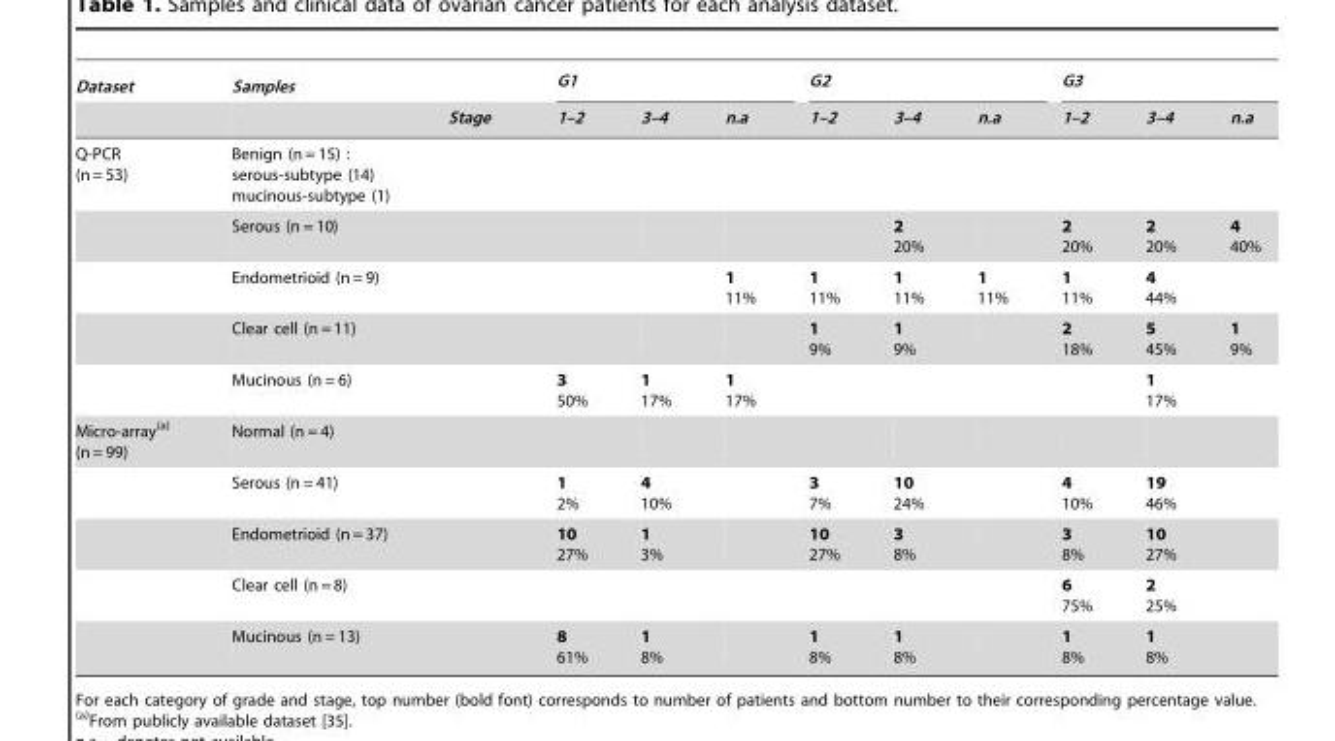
<table><thead><tr><td rowspan="2">Dataset</td><td rowspan="2">Samples</td><td rowspan="2">Stage</td><td colspan="3">G1</td><td colspan="3">G2</td><td colspan="3">G3</td></tr><tr><td>1–2</td><td>3–4</td><td>n.a</td><td>1–2</td><td>3–4</td><td>n.a</td><td>1–2</td><td>3–4</td><td>n.a</td></tr></thead><tbody><tr><td rowspan="5">Q-PCR (n = 53)</td><td colspan="2">Benign (n = 15) : serous-subtype (14) mucinous-subtype (1)</td><td></td><td></td><td></td><td></td><td></td><td></td><td></td><td></td><td></td></tr><tr><td colspan="2">Serous (n = 10)</td><td></td><td></td><td></td><td></td><td>2 20%</td><td></td><td>2 20%</td><td>2 20%</td><td>4 40%</td></tr><tr><td colspan="2">Endometrioid (n = 9)</td><td></td><td></td><td>1 11%</td><td>1 11%</td><td>1 11%</td><td>1 11%</td><td>1 11%</td><td>4 44%</td><td></td></tr><tr><td colspan="2">Clear cell (n = 11)</td><td></td><td></td><td></td><td>1 9%</td><td>1 9%</td><td></td><td>2 18%</td><td>5 45%</td><td>1 9%</td></tr><tr><td colspan="2">Mucinous (n = 6)</td><td>3 50%</td><td>1 17%</td><td>1 17%</td><td></td><td></td><td></td><td></td><td>1 17%</td><td></td></tr><tr><td rowspan="5">Micro-array(a) (n = 99)</td><td colspan="2">Normal (n = 4)</td><td></td><td></td><td></td><td></td><td></td><td></td><td></td><td></td><td></td></tr><tr><td colspan="2">Serous (n = 41)</td><td>1 2%</td><td>4 10%</td><td></td><td>3 7%</td><td>10 24%</td><td></td><td>4 10%</td><td>19 46%</td><td></td></tr><tr><td colspan="2">Endometrioid (n = 37)</td><td>10 27%</td><td>1 3%</td><td></td><td>10 27%</td><td>3 8%</td><td></td><td>3 8%</td><td>10 27%</td><td></td></tr><tr><td colspan="2">Clear cell (n = 8)</td><td></td><td></td><td></td><td></td><td></td><td></td><td>6 75%</td><td>2 25%</td><td></td></tr><tr><td colspan="2">Mucinous (n = 13)</td><td>8 61%</td><td>1 8%</td><td></td><td>1 8%</td><td>1 8%</td><td></td><td>1 8%</td><td>1 8%</td><td></td></tr></tbody></table>